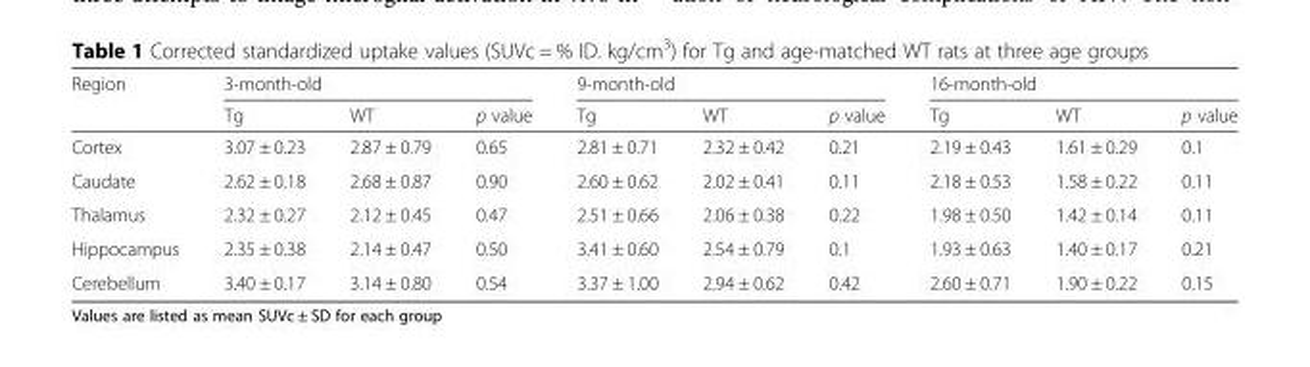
<table><thead><tr><td rowspan="2">Region</td><td colspan="3">3-month-old</td><td colspan="3">9-month-old</td><td colspan="3">16-month-old</td></tr><tr><td>Tg</td><td>WT</td><td>p value</td><td>Tg</td><td>WT</td><td>p value</td><td>Tg</td><td>WT</td><td>p value</td></tr></thead><tbody><tr><td>Cortex</td><td>3.07 ± 0.23</td><td>2.87 ± 0.79</td><td>0.65</td><td>2.81 ± 0.71</td><td>2.32 ± 0.42</td><td>0.21</td><td>2.19 ± 0.43</td><td>1.61 ± 0.29</td><td>0.1</td></tr><tr><td>Caudate</td><td>2.62 ± 0.18</td><td>2.68 ± 0.87</td><td>0.90</td><td>2.60 ± 0.62</td><td>2.02 ± 0.41</td><td>0.11</td><td>2.18 ± 0.53</td><td>1.58 ± 0.22</td><td>0.11</td></tr><tr><td>Thalamus</td><td>2.32 ± 0.27</td><td>2.12 ± 0.45</td><td>0.47</td><td>2.51 ± 0.66</td><td>2.06 ± 0.38</td><td>0.22</td><td>1.98 ± 0.50</td><td>1.42 ± 0.14</td><td>0.11</td></tr><tr><td>Hippocampus</td><td>2.35 ± 0.38</td><td>2.14 ± 0.47</td><td>0.50</td><td>3.41 ± 0.60</td><td>2.54 ± 0.79</td><td>0.1</td><td>1.93 ± 0.63</td><td>1.40 ± 0.17</td><td>0.21</td></tr><tr><td>Cerebellum</td><td>3.40 ± 0.17</td><td>3.14 ± 0.80</td><td>0.54</td><td>3.37 ± 1.00</td><td>2.94 ± 0.62</td><td>0.42</td><td>2.60 ± 0.71</td><td>1.90 ± 0.22</td><td>0.15</td></tr></tbody></table>